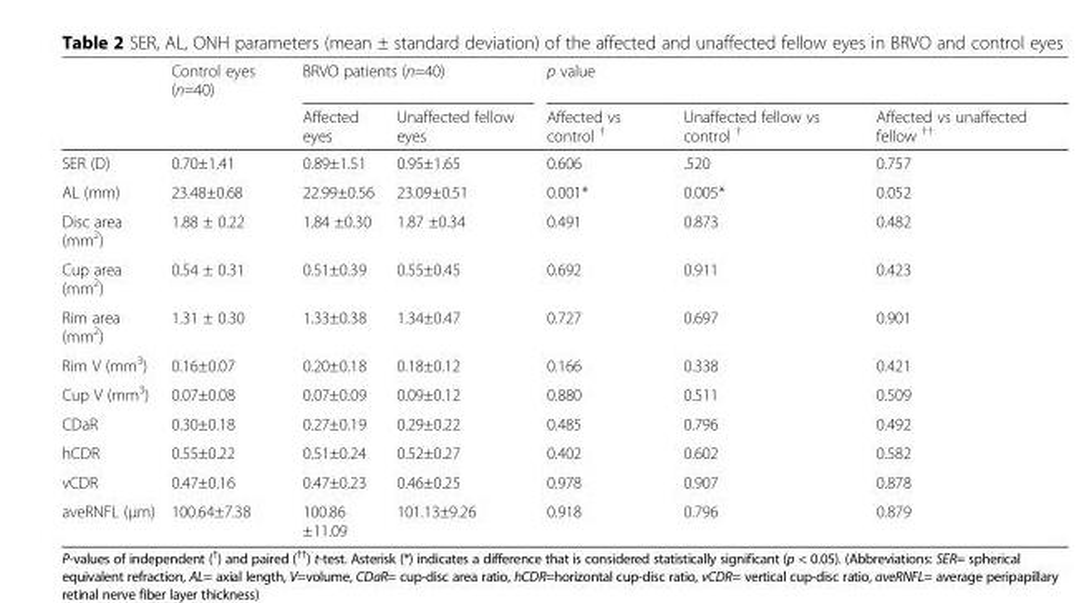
<table><thead><tr><td rowspan="2"></td><td rowspan="2">Control eyes (n=40)</td><td colspan="2">BRVO patients (n=40)</td><td colspan="3">p value</td></tr><tr><td>Affected eyes</td><td>Unaffected fellow eyes</td><td>Affected vs control <sup>†</sup></td><td>Unaffected fellow vs control <sup>†</sup></td><td>Affected vs unaffected fellow <sup>††</sup></td></tr></thead><tbody><tr><td>SER (D)</td><td>0.70±1.41</td><td>0.89±1.51</td><td>0.95±1.65</td><td>0.606</td><td>.520</td><td>0.757</td></tr><tr><td>AL (mm)</td><td>23.48±0.68</td><td>22.99±0.56</td><td>23.09±0.51</td><td>0.001*</td><td>0.005*</td><td>0.052</td></tr><tr><td>Disc area (mm<sup>2</sup>)</td><td>1.88 ± 0.22</td><td>1.84 ±0.30</td><td>1.87 ±0.34</td><td>0.491</td><td>0.873</td><td>0.482</td></tr><tr><td>Cup area (mm<sup>2</sup>)</td><td>0.54 ± 0.31</td><td>0.51±0.39</td><td>0.55±0.45</td><td>0.692</td><td>0.911</td><td>0.423</td></tr><tr><td>Rim area (mm<sup>2</sup>)</td><td>1.31 ± 0.30</td><td>1.33±0.38</td><td>1.34±0.47</td><td>0.727</td><td>0.697</td><td>0.901</td></tr><tr><td>Rim V (mm<sup>3</sup>)</td><td>0.16±0.07</td><td>0.20±0.18</td><td>0.18±0.12</td><td>0.166</td><td>0.338</td><td>0.421</td></tr><tr><td>Cup V (mm<sup>3</sup>)</td><td>0.07±0.08</td><td>0.07±0.09</td><td>0.09±0.12</td><td>0.880</td><td>0.511</td><td>0.509</td></tr><tr><td>CDaR</td><td>0.30±0.18</td><td>0.27±0.19</td><td>0.29±0.22</td><td>0.485</td><td>0.796</td><td>0.492</td></tr><tr><td>hCDR</td><td>0.55±0.22</td><td>0.51±0.24</td><td>0.52±0.27</td><td>0.402</td><td>0.602</td><td>0.582</td></tr><tr><td>vCDR</td><td>0.47±0.16</td><td>0.47±0.23</td><td>0.46±0.25</td><td>0.978</td><td>0.907</td><td>0.878</td></tr><tr><td>aveRNFL (μm)</td><td>100.64±7.38</td><td>100.86 ±11.09</td><td>101.13±9.26</td><td>0.918</td><td>0.796</td><td>0.879</td></tr></tbody></table>